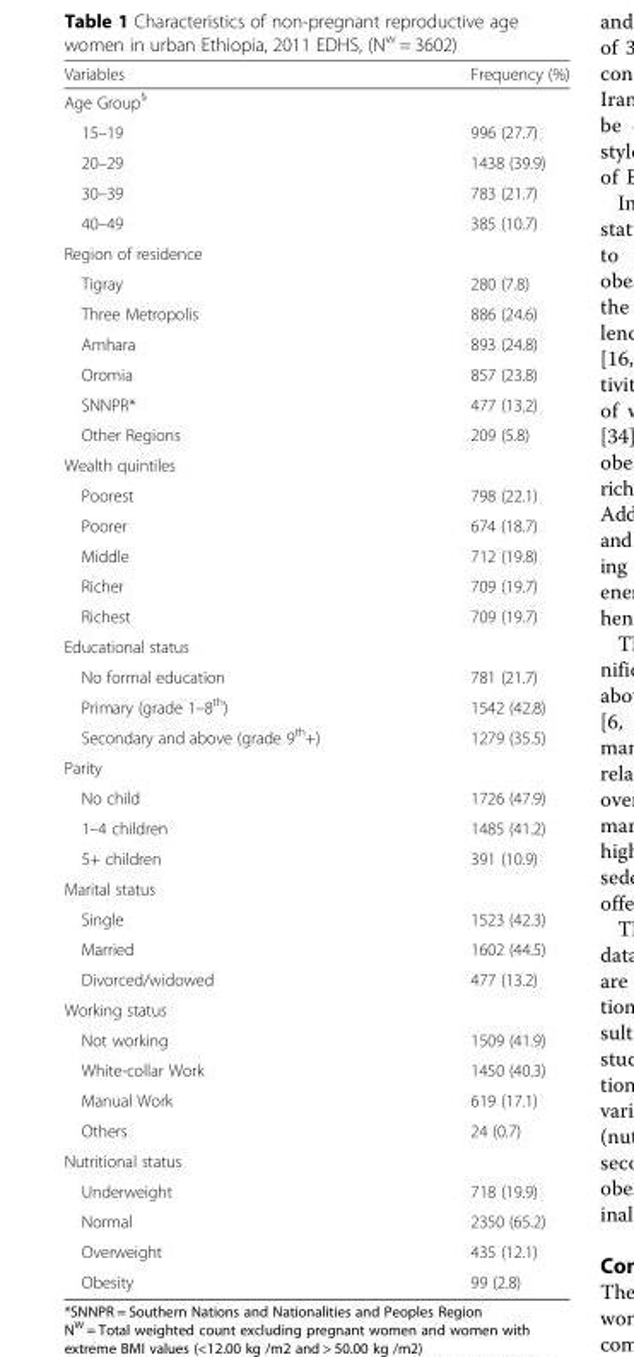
<table><thead><tr><td>Variables</td><td>Frequency (%)</td></tr></thead><tbody><tr><td colspan="2">Age Group<sup>§</sup></td></tr><tr><td>15–19</td><td>996 (27.7)</td></tr><tr><td>20–29</td><td>1438 (39.9)</td></tr><tr><td>30–39</td><td>783 (21.7)</td></tr><tr><td>40–49</td><td>385 (10.7)</td></tr><tr><td colspan="2">Region of residence</td></tr><tr><td>Tigray</td><td>280 (7.8)</td></tr><tr><td>Three Metropolis</td><td>886 (24.6)</td></tr><tr><td>Amhara</td><td>893 (24.8)</td></tr><tr><td>Oromia</td><td>857 (23.8)</td></tr><tr><td>SNNPR*</td><td>477 (13.2)</td></tr><tr><td>Other Regions</td><td>209 (5.8)</td></tr><tr><td colspan="2">Wealth quintiles</td></tr><tr><td>Poorest</td><td>798 (22.1)</td></tr><tr><td>Poorer</td><td>674 (18.7)</td></tr><tr><td>Middle</td><td>712 (19.8)</td></tr><tr><td>Richer</td><td>709 (19.7)</td></tr><tr><td>Richest</td><td>709 (19.7)</td></tr><tr><td colspan="2">Educational status</td></tr><tr><td>No formal education</td><td>781 (21.7)</td></tr><tr><td>Primary (grade 1–8<sup>th</sup>)</td><td>1542 (42.8)</td></tr><tr><td>Secondary and above (grade 9<sup>th</sup>+)</td><td>1279 (35.5)</td></tr><tr><td colspan="2">Parity</td></tr><tr><td>No child</td><td>1726 (47.9)</td></tr><tr><td>1–4 children</td><td>1485 (41.2)</td></tr><tr><td>5+ children</td><td>391 (10.9)</td></tr><tr><td colspan="2">Marital status</td></tr><tr><td>Single</td><td>1523 (42.3)</td></tr><tr><td>Married</td><td>1602 (44.5)</td></tr><tr><td>Divorced/widowed</td><td>477 (13.2)</td></tr><tr><td colspan="2">Working status</td></tr><tr><td>Not working</td><td>1509 (41.9)</td></tr><tr><td>White-collar Work</td><td>1450 (40.3)</td></tr><tr><td>Manual Work</td><td>619 (17.1)</td></tr><tr><td>Others</td><td>24 (0.7)</td></tr><tr><td colspan="2">Nutritional status</td></tr><tr><td>Underweight</td><td>718 (19.9)</td></tr><tr><td>Normal</td><td>2350 (65.2)</td></tr><tr><td>Overweight</td><td>435 (12.1)</td></tr><tr><td>Obesity</td><td>99 (2.8)</td></tr></tbody></table>